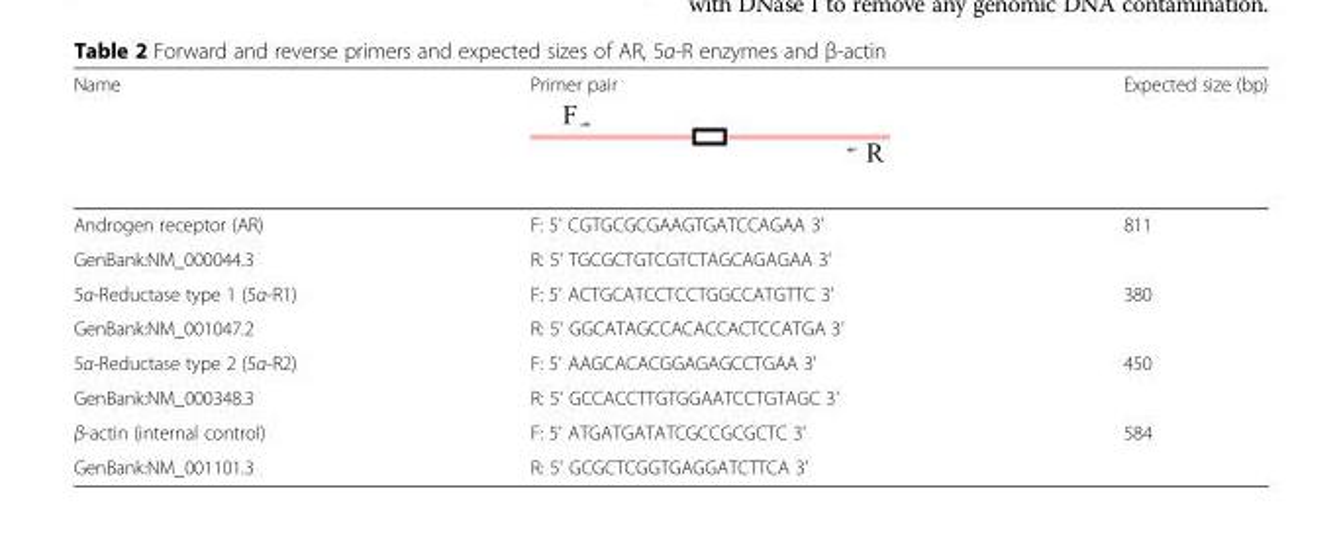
<table><thead><tr><td>Name</td><td>Primer pair</td><td>Expected size (bp)</td></tr></thead><tbody><tr><td>Androgen receptor (AR)</td><td>F: 5&#x27; CGTGCGCGAAGTGATCCAGAA 3&#x27;</td><td rowspan="2">811</td></tr><tr><td>GenBank:NM_000044.3</td><td>R: 5&#x27; TGCGCTGTCGTCTAGCAGAGAA 3&#x27;</td></tr><tr><td>5α-Reductase type 1 (5α-R1)</td><td>F: 5&#x27; ACTGCATCCTCCTGGCCATGTTC 3&#x27;</td><td rowspan="2">380</td></tr><tr><td>GenBank:NM_001047.2</td><td>R: 5&#x27; GGCATAGCCACACCACTCCATGA 3&#x27;</td></tr><tr><td>5α-Reductase type 2 (5α-R2)</td><td>F: 5&#x27; AAGCACACGGAGAGCCTGAA 3&#x27;</td><td rowspan="2">450</td></tr><tr><td>GenBank:NM_000348.3</td><td>R: 5&#x27; GCCACCTTGTGGAATCCTGTAGC 3&#x27;</td></tr><tr><td>β-actin (internal control)</td><td>F: 5&#x27; ATGATGATATCGCCGCGCTC 3&#x27;</td><td rowspan="2">584</td></tr><tr><td>GenBank:NM_001101.3</td><td>R: 5&#x27; GCGCTCGGTGAGGATCTTCA 3&#x27;</td></tr></tbody></table>